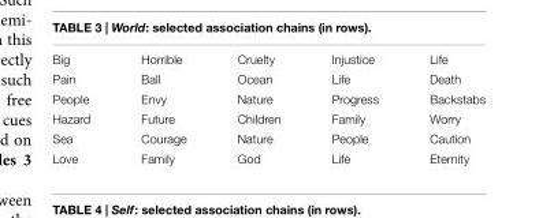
<table><tbody><tr><td>Big</td><td>Horrible</td><td>Cruelty</td><td>Injustice</td><td>Life</td></tr><tr><td>Pain</td><td>Ball</td><td>Ocean</td><td>Life</td><td>Death</td></tr><tr><td>People</td><td>Envy</td><td>Nature</td><td>Progress</td><td>Backstabs</td></tr><tr><td>Hazard</td><td>Future</td><td>Children</td><td>Family</td><td>Worry</td></tr><tr><td>Sea</td><td>Courage</td><td>Nature</td><td>People</td><td>Caution</td></tr><tr><td>Love</td><td>Family</td><td>God</td><td>Life</td><td>Eternity</td></tr></tbody></table>